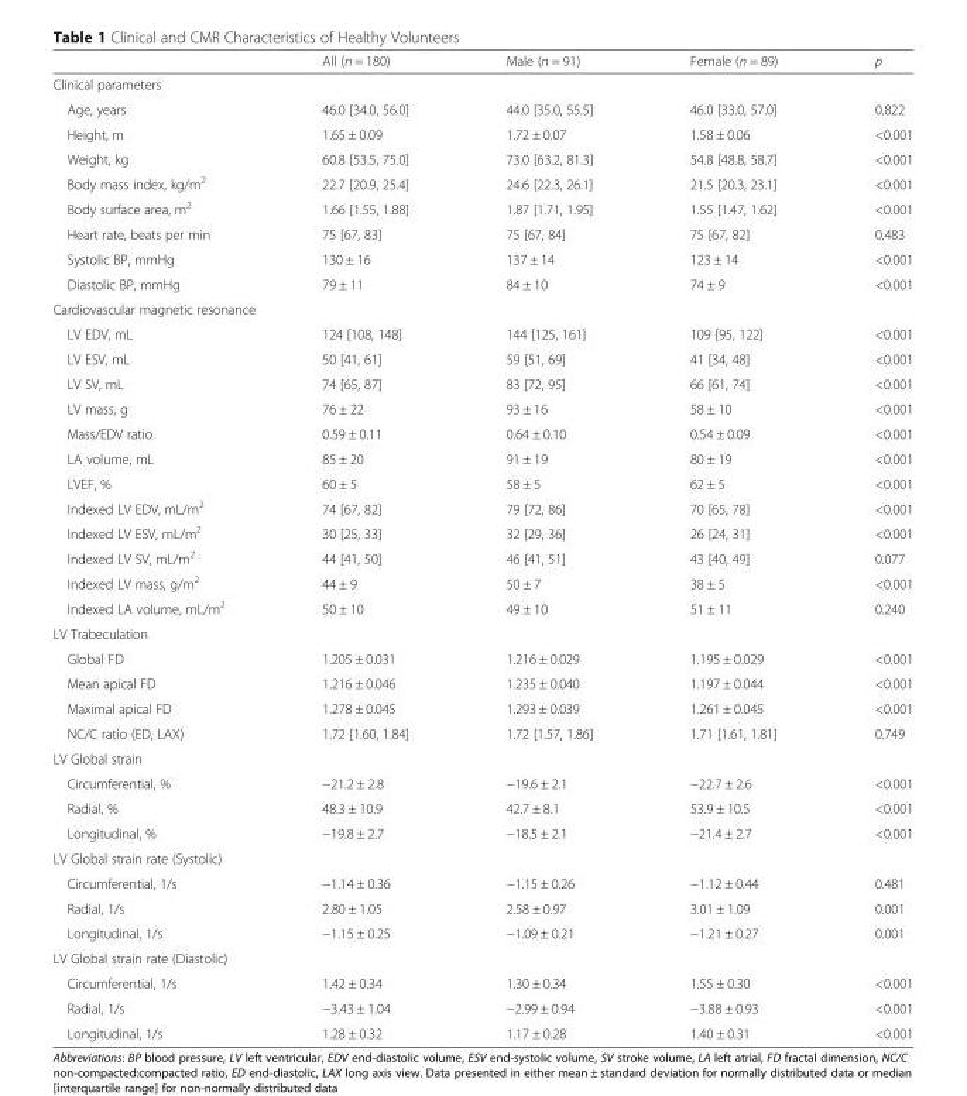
<table><thead><tr><td></td><td>All (n = 180)</td><td>Male (n = 91)</td><td>Female (n = 89)</td><td>p</td></tr></thead><tbody><tr><td colspan="5">Clinical parameters</td></tr><tr><td>Age, years</td><td>46.0 [34.0, 56.0]</td><td>44.0 [35.0, 55.5]</td><td>46.0 [33.0, 57.0]</td><td>0.822</td></tr><tr><td>Height, m</td><td>1.65 ± 0.09</td><td>1.72 ± 0.07</td><td>1.58 ± 0.06</td><td>&lt;0.001</td></tr><tr><td>Weight, kg</td><td>60.8 [53.5, 75.0]</td><td>73.0 [63.2, 81.3]</td><td>54.8 [48.8, 58.7]</td><td>&lt;0.001</td></tr><tr><td>Body mass index, kg/m<sup>2</sup></td><td>22.7 [20.9, 25.4]</td><td>24.6 [22.3, 26.1]</td><td>21.5 [20.3, 23.1]</td><td>&lt;0.001</td></tr><tr><td>Body surface area, m<sup>2</sup></td><td>1.66 [1.55, 1.88]</td><td>1.87 [1.71, 1.95]</td><td>1.55 [1.47, 1.62]</td><td>&lt;0.001</td></tr><tr><td>Heart rate, beats per min</td><td>75 [67, 83]</td><td>75 [67, 84]</td><td>75 [67, 82]</td><td>0.483</td></tr><tr><td>Systolic BP, mmHg</td><td>130 ± 16</td><td>137 ± 14</td><td>123 ± 14</td><td>&lt;0.001</td></tr><tr><td>Diastolic BP, mmHg</td><td>79 ± 11</td><td>84 ± 10</td><td>74 ± 9</td><td>&lt;0.001</td></tr><tr><td colspan="5">Cardiovascular magnetic resonance</td></tr><tr><td>LV EDV, mL</td><td>124 [108, 148]</td><td>144 [125, 161]</td><td>109 [95, 122]</td><td>&lt;0.001</td></tr><tr><td>LV ESV, mL</td><td>50 [41, 61]</td><td>59 [51, 69]</td><td>41 [34, 48]</td><td>&lt;0.001</td></tr><tr><td>LV SV, mL</td><td>74 [65, 87]</td><td>83 [72, 95]</td><td>66 [61, 74]</td><td>&lt;0.001</td></tr><tr><td>LV mass, g</td><td>76 ± 22</td><td>93 ± 16</td><td>58 ± 10</td><td>&lt;0.001</td></tr><tr><td>Mass/EDV ratio</td><td>0.59 ± 0.11</td><td>0.64 ± 0.10</td><td>0.54 ± 0.09</td><td>&lt;0.001</td></tr><tr><td>LA volume, mL</td><td>85 ± 20</td><td>91 ± 19</td><td>80 ± 19</td><td>&lt;0.001</td></tr><tr><td>LVEF, %</td><td>60 ± 5</td><td>58 ± 5</td><td>62 ± 5</td><td>&lt;0.001</td></tr><tr><td>Indexed LV EDV, mL/m<sup>2</sup></td><td>74 [67, 82]</td><td>79 [72, 86]</td><td>70 [65, 78]</td><td>&lt;0.001</td></tr><tr><td>Indexed LV ESV, mL/m<sup>2</sup></td><td>30 [25, 33]</td><td>32 [29, 36]</td><td>26 [24, 31]</td><td>&lt;0.001</td></tr><tr><td>Indexed LV SV, mL/m<sup>2</sup></td><td>44 [41, 50]</td><td>46 [41, 51]</td><td>43 [40, 49]</td><td>0.077</td></tr><tr><td>Indexed LV mass, g/m<sup>2</sup></td><td>44 ± 9</td><td>50 ± 7</td><td>38 ± 5</td><td>&lt;0.001</td></tr><tr><td>Indexed LA volume, mL/m<sup>2</sup></td><td>50 ± 10</td><td>49 ± 10</td><td>51 ± 11</td><td>0.240</td></tr><tr><td colspan="5">LV Trabeculation</td></tr><tr><td>Global FD</td><td>1.205 ± 0.031</td><td>1.216 ± 0.029</td><td>1.195 ± 0.029</td><td>&lt;0.001</td></tr><tr><td>Mean apical FD</td><td>1.216 ± 0.046</td><td>1.235 ± 0.040</td><td>1.197 ± 0.044</td><td>&lt;0.001</td></tr><tr><td>Maximal apical FD</td><td>1.278 ± 0.045</td><td>1.293 ± 0.039</td><td>1.261 ± 0.045</td><td>&lt;0.001</td></tr><tr><td>NC/C ratio (ED, LAX)</td><td>1.72 [1.60, 1.84]</td><td>1.72 [1.57, 1.86]</td><td>1.71 [1.61, 1.81]</td><td>0.749</td></tr><tr><td colspan="5">LV Global strain</td></tr><tr><td>Circumferential, %</td><td>−21.2 ± 2.8</td><td>−19.6 ± 2.1</td><td>−22.7 ± 2.6</td><td>&lt;0.001</td></tr><tr><td>Radial, %</td><td>48.3 ± 10.9</td><td>42.7 ± 8.1</td><td>53.9 ± 10.5</td><td>&lt;0.001</td></tr><tr><td>Longitudinal, %</td><td>−19.8 ± 2.7</td><td>−18.5 ± 2.1</td><td>−21.4 ± 2.7</td><td>&lt;0.001</td></tr><tr><td colspan="5">LV Global strain rate (Systolic)</td></tr><tr><td>Circumferential, 1/s</td><td>−1.14 ± 0.36</td><td>−1.15 ± 0.26</td><td>−1.12 ± 0.44</td><td>0.481</td></tr><tr><td>Radial, 1/s</td><td>2.80 ± 1.05</td><td>2.58 ± 0.97</td><td>3.01 ± 1.09</td><td>0.001</td></tr><tr><td>Longitudinal, 1/s</td><td>−1.15 ± 0.25</td><td>−1.09 ± 0.21</td><td>−1.21 ± 0.27</td><td>0.001</td></tr><tr><td colspan="5">LV Global strain rate (Diastolic)</td></tr><tr><td>Circumferential, 1/s</td><td>1.42 ± 0.34</td><td>1.30 ± 0.34</td><td>1.55 ± 0.30</td><td>&lt;0.001</td></tr><tr><td>Radial, 1/s</td><td>−3.43 ± 1.04</td><td>−2.99 ± 0.94</td><td>−3.88 ± 0.93</td><td>&lt;0.001</td></tr><tr><td>Longitudinal, 1/s</td><td>1.28 ± 0.32</td><td>1.17 ± 0.28</td><td>1.40 ± 0.31</td><td>&lt;0.001</td></tr></tbody></table>